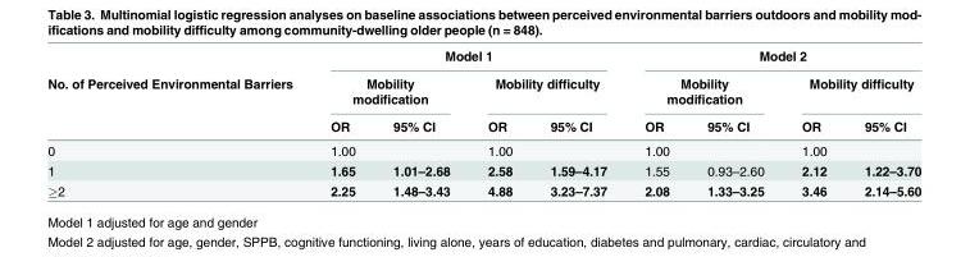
<table><thead><tr><td rowspan="3">No. of Perceived Environmental Barriers</td><td colspan="4">Model 1</td><td colspan="4">Model 2</td></tr><tr><td colspan="2">Mobility modification</td><td colspan="2">Mobility difficulty</td><td colspan="2">Mobility modification</td><td colspan="2">Mobility difficulty</td></tr><tr><td>OR</td><td>95% CI</td><td>OR</td><td>95% CI</td><td>OR</td><td>95% CI</td><td>OR</td><td>95% CI</td></tr></thead><tbody><tr><td>0</td><td>1.00</td><td></td><td>1.00</td><td></td><td>1.00</td><td></td><td>1.00</td><td></td></tr><tr><td>1</td><td>1.65</td><td>1.01–2.68</td><td>2.58</td><td>1.59–4.17</td><td>1.55</td><td>0.93–2.60</td><td>2.12</td><td>1.22–3.70</td></tr><tr><td>≥2</td><td>2.25</td><td>1.48–3.43</td><td>4.88</td><td>3.23–7.37</td><td>2.08</td><td>1.33–3.25</td><td>3.46</td><td>2.14–5.60</td></tr></tbody></table>